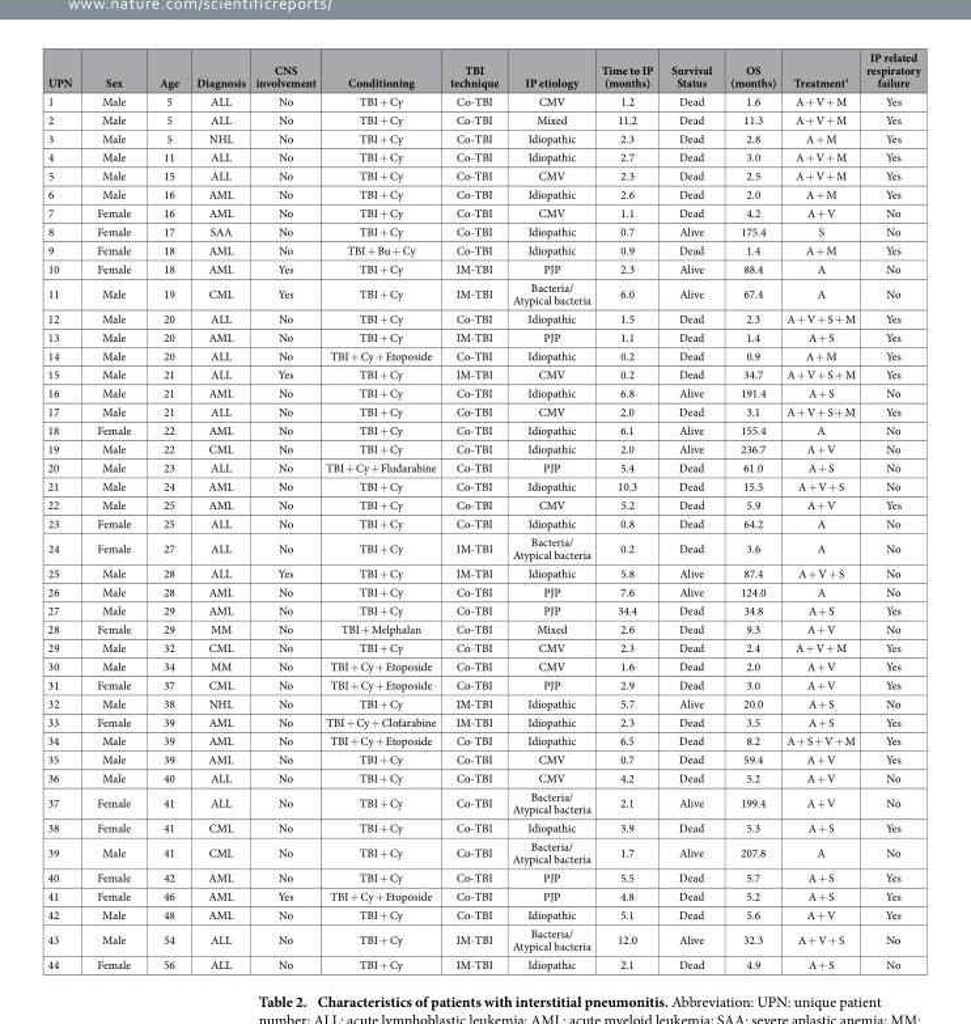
<table><thead><tr><td>UPN</td><td>Sex</td><td>Age</td><td>Diagnosis</td><td>CNS involvement</td><td>Conditioning</td><td>TBI technique</td><td>IP etiology</td><td>Time to IP (months)</td><td>Survival Status</td><td>OS (months)</td><td>Treatment†</td><td>IP related respiratory failure</td></tr></thead><tbody><tr><td>1</td><td>Male</td><td>5</td><td>ALL</td><td>No</td><td>TBI + Cy</td><td>Co-TBI</td><td>CMV</td><td>1.2</td><td>Dead</td><td>1.6</td><td>A + V + M</td><td>Yes</td></tr><tr><td>2</td><td>Male</td><td>5</td><td>ALL</td><td>No</td><td>TBI + Cy</td><td>Co-TBI</td><td>Mixed</td><td>11.2</td><td>Dead</td><td>11.3</td><td>A + V + M</td><td>Yes</td></tr><tr><td>3</td><td>Male</td><td>5</td><td>NHL</td><td>No</td><td>TBI + Cy</td><td>Co-TBI</td><td>Idiopathic</td><td>2.3</td><td>Dead</td><td>2.8</td><td>A + M</td><td>Yes</td></tr><tr><td>4</td><td>Male</td><td>11</td><td>ALL</td><td>No</td><td>TBI + Cy</td><td>Co-TBI</td><td>Idiopathic</td><td>2.7</td><td>Dead</td><td>3.0</td><td>A + V + M</td><td>Yes</td></tr><tr><td>5</td><td>Male</td><td>15</td><td>ALL</td><td>No</td><td>TBI + Cy</td><td>Co-TBI</td><td>CMV</td><td>2.3</td><td>Dead</td><td>2.5</td><td>A + V + M</td><td>Yes</td></tr><tr><td>6</td><td>Male</td><td>16</td><td>AML</td><td>No</td><td>TBI + Cy</td><td>Co-TBI</td><td>Idiopathic</td><td>2.6</td><td>Dead</td><td>2.0</td><td>A + M</td><td>Yes</td></tr><tr><td>7</td><td>Female</td><td>16</td><td>AML</td><td>No</td><td>TBI + Cy</td><td>Co-TBI</td><td>CMV</td><td>1.1</td><td>Dead</td><td>4.2</td><td>A + V</td><td>No</td></tr><tr><td>8</td><td>Female</td><td>17</td><td>SAA</td><td>No</td><td>TBI + Cy</td><td>Co-TBI</td><td>Idiopathic</td><td>0.7</td><td>Alive</td><td>175.4</td><td>S</td><td>No</td></tr><tr><td>9</td><td>Female</td><td>18</td><td>AML</td><td>No</td><td>TBI + Bu + Cy</td><td>Co-TBI</td><td>Idiopathic</td><td>0.9</td><td>Dead</td><td>1.4</td><td>A + M</td><td>Yes</td></tr><tr><td>10</td><td>Female</td><td>18</td><td>AML</td><td>Yes</td><td>TBI + Cy</td><td>IM-TBI</td><td>PJP</td><td>2.3</td><td>Alive</td><td>88.4</td><td>A</td><td>No</td></tr><tr><td>11</td><td>Male</td><td>19</td><td>CML</td><td>Yes</td><td>TBI + Cy</td><td>IM-TBI</td><td>Bacteria/ Atypical bacteria</td><td>6.0</td><td>Alive</td><td>67.4</td><td>A</td><td>No</td></tr><tr><td>12</td><td>Male</td><td>20</td><td>ALL</td><td>No</td><td>TBI + Cy</td><td>Co-TBI</td><td>Idiopathic</td><td>1.5</td><td>Dead</td><td>2.3</td><td>A + V + S + M</td><td>Yes</td></tr><tr><td>13</td><td>Male</td><td>20</td><td>AML</td><td>No</td><td>TBI + Cy</td><td>IM-TBI</td><td>PJP</td><td>1.1</td><td>Dead</td><td>1.4</td><td>A + S</td><td>Yes</td></tr><tr><td>14</td><td>Male</td><td>20</td><td>ALL</td><td>No</td><td>TBI + Cy + Etoposide</td><td>Co-TBI</td><td>Idiopathic</td><td>0.2</td><td>Dead</td><td>0.9</td><td>A + M</td><td>Yes</td></tr><tr><td>15</td><td>Male</td><td>21</td><td>ALL</td><td>Yes</td><td>TBI + Cy</td><td>IM-TBI</td><td>CMV</td><td>0.2</td><td>Dead</td><td>34.7</td><td>A + V + S + M</td><td>Yes</td></tr><tr><td>16</td><td>Male</td><td>21</td><td>AML</td><td>No</td><td>TBI + Cy</td><td>Co-TBI</td><td>Idiopathic</td><td>6.8</td><td>Alive</td><td>191.4</td><td>A + S</td><td>No</td></tr><tr><td>17</td><td>Male</td><td>21</td><td>ALL</td><td>No</td><td>TBI + Cy</td><td>Co-TBI</td><td>CMV</td><td>2.0</td><td>Dead</td><td>3.1</td><td>A + V + S + M</td><td>Yes</td></tr><tr><td>18</td><td>Female</td><td>22</td><td>AML</td><td>No</td><td>TBI + Cy</td><td>Co-TBI</td><td>Idiopathic</td><td>6.1</td><td>Alive</td><td>155.4</td><td>A</td><td>No</td></tr><tr><td>19</td><td>Male</td><td>22</td><td>CML</td><td>No</td><td>TBI + Cy</td><td>Co-TBI</td><td>Idiopathic</td><td>2.0</td><td>Alive</td><td>236.7</td><td>A + V</td><td>No</td></tr><tr><td>20</td><td>Male</td><td>23</td><td>ALL</td><td>No</td><td>TBI + Cy + Fludarabine</td><td>Co-TBI</td><td>PJP</td><td>5.4</td><td>Dead</td><td>61.0</td><td>A + S</td><td>No</td></tr><tr><td>21</td><td>Male</td><td>24</td><td>AML</td><td>No</td><td>TBI + Cy</td><td>Co-TBI</td><td>Idiopathic</td><td>10.3</td><td>Dead</td><td>15.5</td><td>A + V + S</td><td>No</td></tr><tr><td>22</td><td>Male</td><td>25</td><td>AML</td><td>No</td><td>TBI + Cy</td><td>Co-TBI</td><td>CMV</td><td>5.2</td><td>Dead</td><td>5.9</td><td>A + V</td><td>Yes</td></tr><tr><td>23</td><td>Female</td><td>25</td><td>ALL</td><td>No</td><td>TBI + Cy</td><td>Co-TBI</td><td>Idiopathic</td><td>0.8</td><td>Dead</td><td>64.2</td><td>A</td><td>No</td></tr><tr><td>24</td><td>Female</td><td>27</td><td>ALL</td><td>No</td><td>TBI + Cy</td><td>IM-TBI</td><td>Bacteria/ Atypical bacteria</td><td>0.2</td><td>Dead</td><td>3.6</td><td>A</td><td>No</td></tr><tr><td>25</td><td>Male</td><td>28</td><td>ALL</td><td>Yes</td><td>TBI + Cy</td><td>IM-TBI</td><td>Idiopathic</td><td>5.8</td><td>Alive</td><td>87.4</td><td>A + V + S</td><td>No</td></tr><tr><td>26</td><td>Male</td><td>28</td><td>AML</td><td>No</td><td>TBI + Cy</td><td>Co-TBI</td><td>PJP</td><td>7.6</td><td>Alive</td><td>124.0</td><td>A</td><td>No</td></tr><tr><td>27</td><td>Male</td><td>29</td><td>AML</td><td>No</td><td>TBI + Cy</td><td>Co-TBI</td><td>PJP</td><td>34.4</td><td>Dead</td><td>34.8</td><td>A + S</td><td>Yes</td></tr><tr><td>28</td><td>Female</td><td>29</td><td>MM</td><td>No</td><td>TBI + Melphalan</td><td>Co-TBI</td><td>Mixed</td><td>2.6</td><td>Dead</td><td>9.3</td><td>A + V</td><td>No</td></tr><tr><td>29</td><td>Male</td><td>32</td><td>CML</td><td>No</td><td>TBI + Cy</td><td>Co-TBI</td><td>CMV</td><td>2.3</td><td>Dead</td><td>2.4</td><td>A + V + M</td><td>Yes</td></tr><tr><td>30</td><td>Male</td><td>34</td><td>MM</td><td>No</td><td>TBI + Cy + Etoposide</td><td>Co-TBI</td><td>CMV</td><td>1.6</td><td>Dead</td><td>2.0</td><td>A + V</td><td>Yes</td></tr><tr><td>31</td><td>Female</td><td>37</td><td>CML</td><td>No</td><td>TBI + Cy + Etoposide</td><td>Co-TBI</td><td>PJP</td><td>2.9</td><td>Dead</td><td>3.0</td><td>A + V</td><td>Yes</td></tr><tr><td>32</td><td>Male</td><td>38</td><td>NHL</td><td>No</td><td>TBI + Cy</td><td>IM-TBI</td><td>Idiopathic</td><td>5.7</td><td>Alive</td><td>20.0</td><td>A + S</td><td>No</td></tr><tr><td>33</td><td>Female</td><td>39</td><td>AML</td><td>No</td><td>TBI + Cy + Clofarabine</td><td>IM-TBI</td><td>Idiopathic</td><td>2.3</td><td>Dead</td><td>3.5</td><td>A + S</td><td>Yes</td></tr><tr><td>34</td><td>Male</td><td>39</td><td>AML</td><td>No</td><td>TBI + Cy + Etoposide</td><td>Co-TBI</td><td>Idiopathic</td><td>6.5</td><td>Dead</td><td>8.2</td><td>A + S + V + M</td><td>Yes</td></tr><tr><td>35</td><td>Male</td><td>39</td><td>AML</td><td>No</td><td>TBI + Cy</td><td>Co-TBI</td><td>CMV</td><td>0.7</td><td>Dead</td><td>59.4</td><td>A + V</td><td>Yes</td></tr><tr><td>36</td><td>Male</td><td>40</td><td>ALL</td><td>No</td><td>TBI + Cy</td><td>Co-TBI</td><td>CMV</td><td>4.2</td><td>Dead</td><td>5.2</td><td>A + V</td><td>No</td></tr><tr><td>37</td><td>Female</td><td>41</td><td>ALL</td><td>No</td><td>TBI + Cy</td><td>Co-TBI</td><td>Bacteria/ Atypical bacteria</td><td>2.1</td><td>Alive</td><td>199.4</td><td>A + V</td><td>No</td></tr><tr><td>38</td><td>Female</td><td>41</td><td>CML</td><td>No</td><td>TBI + Cy</td><td>Co-TBI</td><td>Idiopathic</td><td>3.9</td><td>Dead</td><td>5.3</td><td>A + S</td><td>Yes</td></tr><tr><td>39</td><td>Male</td><td>41</td><td>CML</td><td>No</td><td>TBI + Cy</td><td>Co-TBI</td><td>Bacteria/ Atypical bacteria</td><td>1.7</td><td>Alive</td><td>207.8</td><td>A</td><td>No</td></tr><tr><td>40</td><td>Female</td><td>42</td><td>AML</td><td>No</td><td>TBI + Cy</td><td>Co-TBI</td><td>PJP</td><td>5.5</td><td>Dead</td><td>5.7</td><td>A + S</td><td>Yes</td></tr><tr><td>41</td><td>Female</td><td>46</td><td>AML</td><td>Yes</td><td>TBI + Cy + Etoposide</td><td>Co-TBI</td><td>PJP</td><td>4.8</td><td>Dead</td><td>5.2</td><td>A + S</td><td>Yes</td></tr><tr><td>42</td><td>Male</td><td>48</td><td>AML</td><td>No</td><td>TBI + Cy</td><td>Co-TBI</td><td>Idiopathic</td><td>5.1</td><td>Dead</td><td>5.6</td><td>A + V</td><td>Yes</td></tr><tr><td>43</td><td>Male</td><td>54</td><td>ALL</td><td>No</td><td>TBI + Cy</td><td>IM-TBI</td><td>Bacteria/ Atypical bacteria</td><td>12.0</td><td>Alive</td><td>32.3</td><td>A + V + S</td><td>No</td></tr><tr><td>44</td><td>Female</td><td>56</td><td>ALL</td><td>No</td><td>TBI + Cy</td><td>IM-TBI</td><td>Idiopathic</td><td>2.1</td><td>Dead</td><td>4.9</td><td>A + S</td><td>No</td></tr></tbody></table>